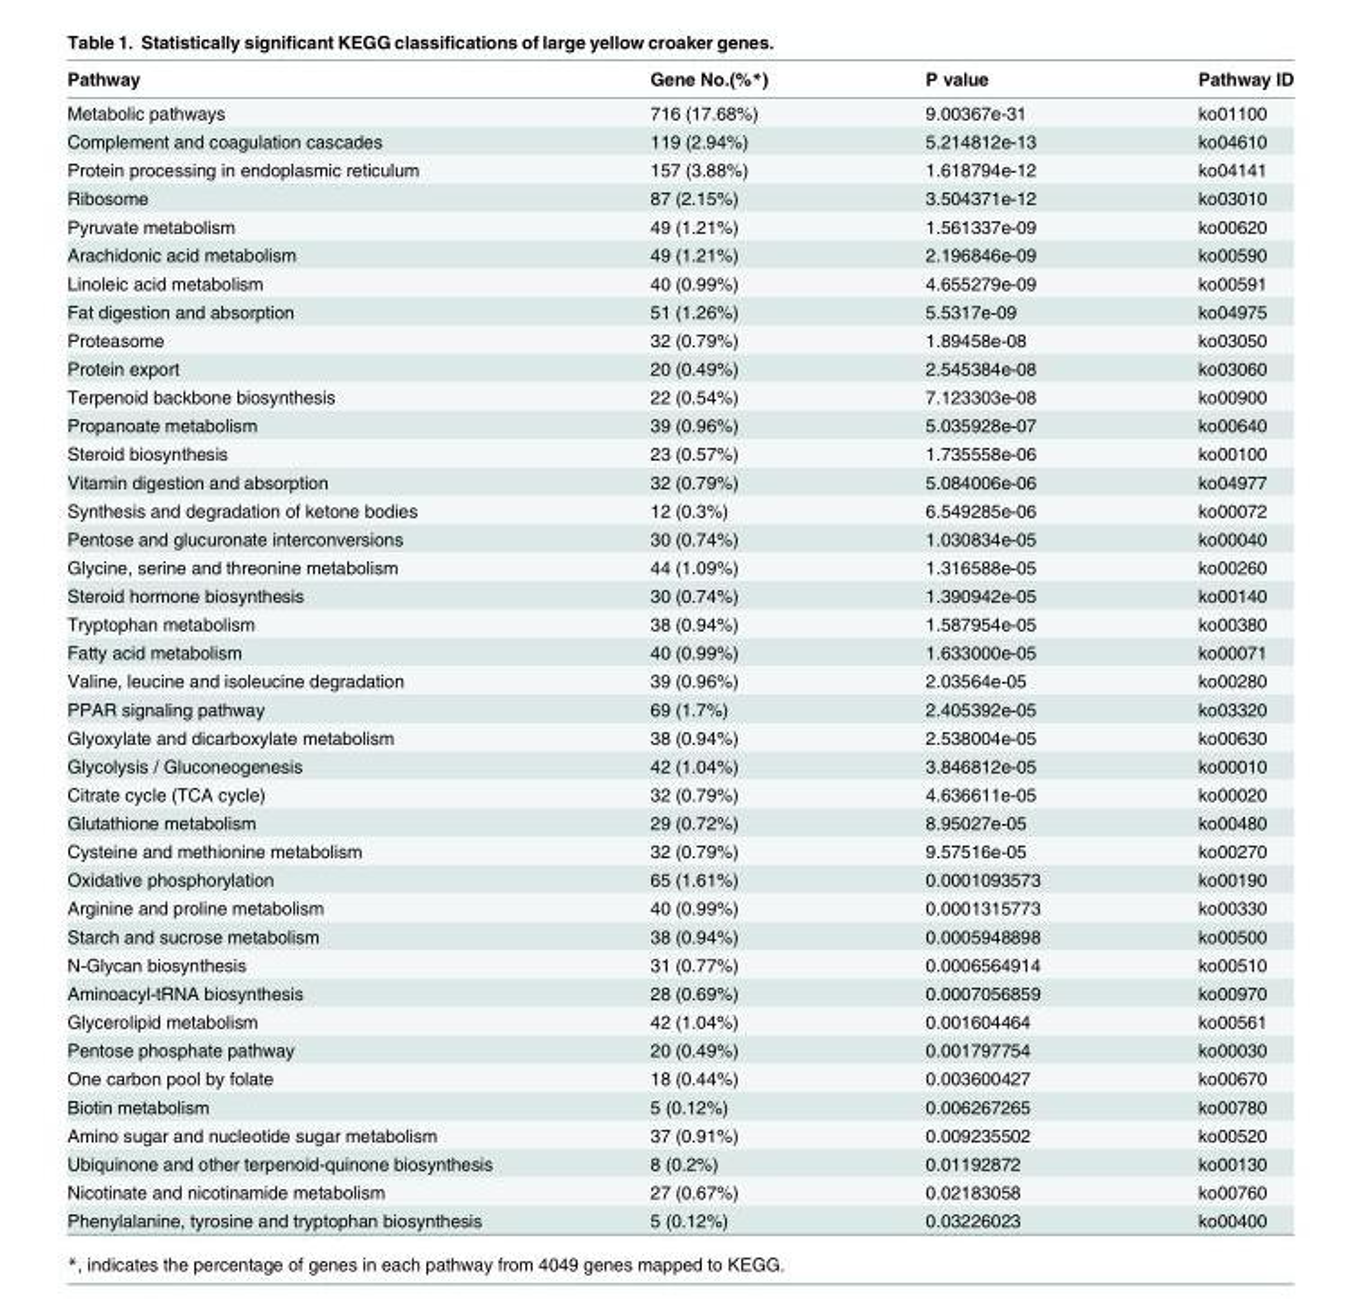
<table><thead><tr><td>Pathway</td><td>Gene No.(%*)</td><td>P value</td><td>Pathway ID</td></tr></thead><tbody><tr><td>Metabolic pathways</td><td>716 (17.68%)</td><td>9.00367e-31</td><td>ko01100</td></tr><tr><td>Complement and coagulation cascades</td><td>119 (2.94%)</td><td>5.214812e-13</td><td>ko04610</td></tr><tr><td>Protein processing in endoplasmic reticulum</td><td>157 (3.88%)</td><td>1.618794e-12</td><td>ko04141</td></tr><tr><td>Ribosome</td><td>87 (2.15%)</td><td>3.504371e-12</td><td>ko03010</td></tr><tr><td>Pyruvate metabolism</td><td>49 (1.21%)</td><td>1.561337e-09</td><td>ko00620</td></tr><tr><td>Arachidonic acid metabolism</td><td>49 (1.21%)</td><td>2.196846e-09</td><td>ko00590</td></tr><tr><td>Linoleic acid metabolism</td><td>40 (0.99%)</td><td>4.655279e-09</td><td>ko00591</td></tr><tr><td>Fat digestion and absorption</td><td>51 (1.26%)</td><td>5.5317e-09</td><td>ko04975</td></tr><tr><td>Proteasome</td><td>32 (0.79%)</td><td>1.89458e-08</td><td>ko03050</td></tr><tr><td>Protein export</td><td>20 (0.49%)</td><td>2.545384e-08</td><td>ko03060</td></tr><tr><td>Terpenoid backbone biosynthesis</td><td>22 (0.54%)</td><td>7.123303e-08</td><td>ko00900</td></tr><tr><td>Propanoate metabolism</td><td>39 (0.96%)</td><td>5.035928e-07</td><td>ko00640</td></tr><tr><td>Steroid biosynthesis</td><td>23 (0.57%)</td><td>1.735558e-06</td><td>ko00100</td></tr><tr><td>Vitamin digestion and absorption</td><td>32 (0.79%)</td><td>5.084006e-06</td><td>ko04977</td></tr><tr><td>Synthesis and degradation of ketone bodies</td><td>12 (0.3%)</td><td>6.549285e-06</td><td>ko00072</td></tr><tr><td>Pentose and glucuronate interconversions</td><td>30 (0.74%)</td><td>1.030834e-05</td><td>ko00040</td></tr><tr><td>Glycine, serine and threonine metabolism</td><td>44 (1.09%)</td><td>1.316588e-05</td><td>ko00260</td></tr><tr><td>Steroid hormone biosynthesis</td><td>30 (0.74%)</td><td>1.390942e-05</td><td>ko00140</td></tr><tr><td>Tryptophan metabolism</td><td>38 (0.94%)</td><td>1.587954e-05</td><td>ko00380</td></tr><tr><td>Fatty acid metabolism</td><td>40 (0.99%)</td><td>1.633000e-05</td><td>ko00071</td></tr><tr><td>Valine, leucine and isoleucine degradation</td><td>39 (0.96%)</td><td>2.03564e-05</td><td>ko00280</td></tr><tr><td>PPAR signaling pathway</td><td>69 (1.7%)</td><td>2.405392e-05</td><td>ko03320</td></tr><tr><td>Glyoxylate and dicarboxylate metabolism</td><td>38 (0.94%)</td><td>2.538004e-05</td><td>ko00630</td></tr><tr><td>Glycolysis / Gluconeogenesis</td><td>42 (1.04%)</td><td>3.846812e-05</td><td>ko00010</td></tr><tr><td>Citrate cycle (TCA cycle)</td><td>32 (0.79%)</td><td>4.636611e-05</td><td>ko00020</td></tr><tr><td>Glutathione metabolism</td><td>29 (0.72%)</td><td>8.95027e-05</td><td>ko00480</td></tr><tr><td>Cysteine and methionine metabolism</td><td>32 (0.79%)</td><td>9.57516e-05</td><td>ko00270</td></tr><tr><td>Oxidative phosphorylation</td><td>65 (1.61%)</td><td>0.0001093573</td><td>ko00190</td></tr><tr><td>Arginine and proline metabolism</td><td>40 (0.99%)</td><td>0.0001315773</td><td>ko00330</td></tr><tr><td>Starch and sucrose metabolism</td><td>38 (0.94%)</td><td>0.0005948898</td><td>ko00500</td></tr><tr><td>N-Glycan biosynthesis</td><td>31 (0.77%)</td><td>0.0006564914</td><td>ko00510</td></tr><tr><td>Aminoacyl-tRNA biosynthesis</td><td>28 (0.69%)</td><td>0.0007056859</td><td>ko00970</td></tr><tr><td>Glycerolipid metabolism</td><td>42 (1.04%)</td><td>0.001604464</td><td>ko00561</td></tr><tr><td>Pentose phosphate pathway</td><td>20 (0.49%)</td><td>0.001797754</td><td>ko00030</td></tr><tr><td>One carbon pool by folate</td><td>18 (0.44%)</td><td>0.003600427</td><td>ko00670</td></tr><tr><td>Biotin metabolism</td><td>5 (0.12%)</td><td>0.006267265</td><td>ko00780</td></tr><tr><td>Amino sugar and nucleotide sugar metabolism</td><td>37 (0.91%)</td><td>0.009235502</td><td>ko00520</td></tr><tr><td>Ubiquinone and other terpenoid-quinone biosynthesis</td><td>8 (0.2%)</td><td>0.01192872</td><td>ko00130</td></tr><tr><td>Nicotinate and nicotinamide metabolism</td><td>27 (0.67%)</td><td>0.02183058</td><td>ko00760</td></tr><tr><td>Phenylalanine, tyrosine and tryptophan biosynthesis</td><td>5 (0.12%)</td><td>0.03226023</td><td>ko00400</td></tr></tbody></table>